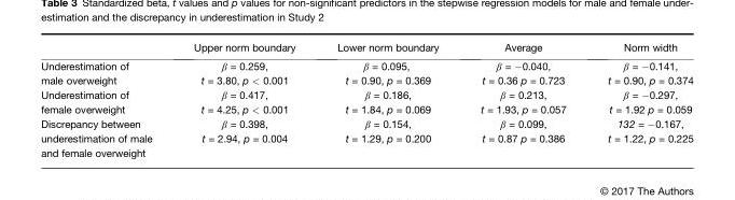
<table><thead><tr><td></td><td>Upper norm boundary</td><td>Lower norm boundary</td><td>Average</td><td>Norm width</td></tr></thead><tbody><tr><td>Underestimation of male overweight</td><td>β = 0.259, t = 3.80, p &lt; 0.001</td><td>β = 0.095, t = 0.90, p = 0.369</td><td>β = −0.040, t = 0.36 p = 0.723</td><td>β = −0.141, t = 0.90, p = 0.374</td></tr><tr><td>Underestimation of female overweight</td><td>β = 0.417, t = 4.25, p &lt; 0.001</td><td>β = 0.186, t = 1.84, p = 0.069</td><td>β = 0.213, t = 1.93, p = 0.057</td><td>β = −0.297, t = 1.92 p = 0.059</td></tr><tr><td>Discrepancy between underestimation of male and female overweight</td><td>β = 0.398, t = 2.94, p = 0.004</td><td>β = 0.154, t = 1.29, p = 0.200</td><td>β = 0.099, t = 0.87 p = 0.386</td><td>132 = −0.167, t = 1.22, p = 0.225</td></tr></tbody></table>